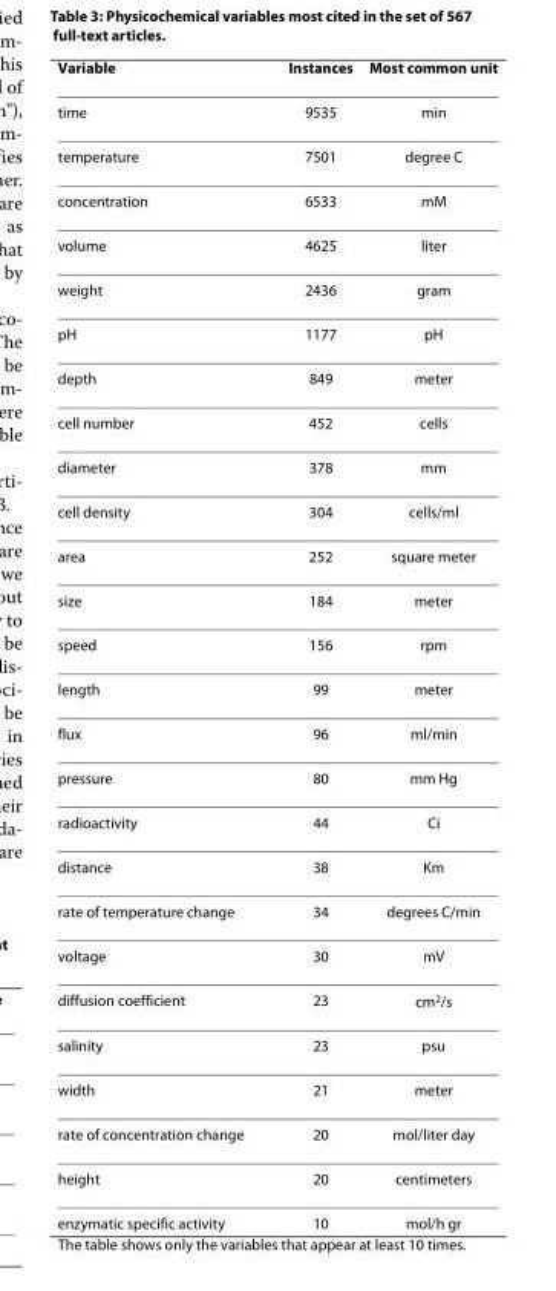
<table><thead><tr><td>Variable</td><td>Instances</td><td>Most common unit</td></tr></thead><tbody><tr><td>time</td><td>9535</td><td>min</td></tr><tr><td>temperature</td><td>7501</td><td>degree C</td></tr><tr><td>concentration</td><td>6533</td><td>mM</td></tr><tr><td>volume</td><td>4625</td><td>liter</td></tr><tr><td>weight</td><td>2436</td><td>gram</td></tr><tr><td>pH</td><td>1177</td><td>pH</td></tr><tr><td>depth</td><td>849</td><td>meter</td></tr><tr><td>cell number</td><td>452</td><td>cells</td></tr><tr><td>diameter</td><td>378</td><td>mm</td></tr><tr><td>cell density</td><td>304</td><td>cells/ml</td></tr><tr><td>area</td><td>252</td><td>square meter</td></tr><tr><td>size</td><td>184</td><td>meter</td></tr><tr><td>speed</td><td>156</td><td>rpm</td></tr><tr><td>length</td><td>99</td><td>meter</td></tr><tr><td>flux</td><td>96</td><td>ml/min</td></tr><tr><td>pressure</td><td>80</td><td>mm Hg</td></tr><tr><td>radioactivity</td><td>44</td><td>Ci</td></tr><tr><td>distance</td><td>38</td><td>Km</td></tr><tr><td>rate of temperature change</td><td>34</td><td>degrees C/min</td></tr><tr><td>voltage</td><td>30</td><td>mV</td></tr><tr><td>diffusion coefficient</td><td>23</td><td>cm<sup>2</sup>/s</td></tr><tr><td>salinity</td><td>23</td><td>psu</td></tr><tr><td>width</td><td>21</td><td>meter</td></tr><tr><td>rate of concentration change</td><td>20</td><td>mol/liter day</td></tr><tr><td>height</td><td>20</td><td>centimeters</td></tr><tr><td>enzymatic specific activity</td><td>10</td><td>mol/h gr</td></tr></tbody></table>